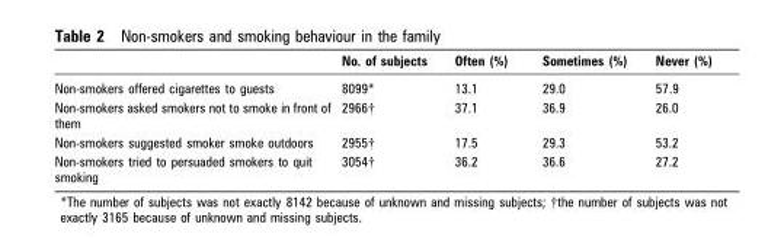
<table><thead><tr><td></td><td>No. of subjects</td><td>Often (%)</td><td>Sometimes (%)</td><td>Never (%)</td></tr></thead><tbody><tr><td>Non-smokers offered cigarettes to guests</td><td>8099*</td><td>13.1</td><td>29.0</td><td>57.9</td></tr><tr><td>Non-smokers asked smokers not to smoke in front of them</td><td>2966†</td><td>37.1</td><td>36.9</td><td>26.0</td></tr><tr><td>Non-smokers suggested smoker smoke outdoors</td><td>2955†</td><td>17.5</td><td>29.3</td><td>53.2</td></tr><tr><td>Non-smokers tried to persuaded smokers to quit smoking</td><td>3054†</td><td>36.2</td><td>36.6</td><td>27.2</td></tr></tbody></table>